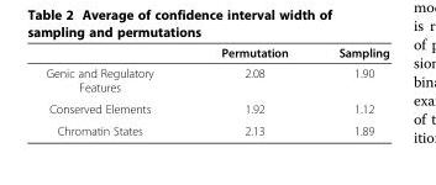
<table><thead><tr><td></td><td>Permutation</td><td>Sampling</td></tr></thead><tbody><tr><td>Genic and Regulatory Features</td><td>2.08</td><td>1.90</td></tr><tr><td>Conserved Elements</td><td>1.92</td><td>1.12</td></tr><tr><td>Chromatin States</td><td>2.13</td><td>1.89</td></tr></tbody></table>